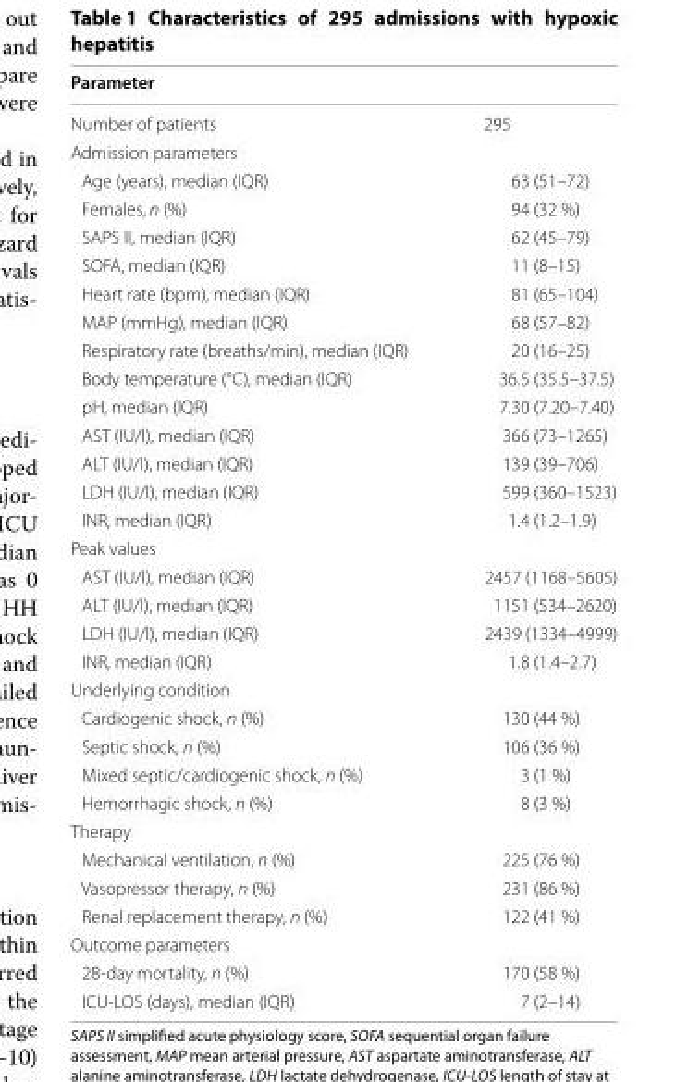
<table><thead><tr><td>Parameter</td><td></td></tr></thead><tbody><tr><td>Number of patients</td><td>295</td></tr><tr><td colspan="2">Admission parameters</td></tr><tr><td>Age (years), median (IQR)</td><td>63 (51–72)</td></tr><tr><td>Females, n (%)</td><td>94 (32 %)</td></tr><tr><td>SAPS II, median (IQR)</td><td>62 (45–79)</td></tr><tr><td>SOFA, median (IQR)</td><td>11 (8–15)</td></tr><tr><td>Heart rate (bpm), median (IQR)</td><td>81 (65–104)</td></tr><tr><td>MAP (mmHg), median (IQR)</td><td>68 (57–82)</td></tr><tr><td>Respiratory rate (breaths/min), median (IQR)</td><td>20 (16–25)</td></tr><tr><td>Body temperature (°C), median (IQR)</td><td>36.5 (35.5–37.5)</td></tr><tr><td>pH, median (IQR)</td><td>7.30 (7.20–7.40)</td></tr><tr><td>AST (IU/l), median (IQR)</td><td>366 (73–1265)</td></tr><tr><td>ALT (IU/l), median (IQR)</td><td>139 (39–706)</td></tr><tr><td>LDH (IU/l), median (IQR)</td><td>599 (360–1523)</td></tr><tr><td>INR, median (IQR)</td><td>1.4 (1.2–1.9)</td></tr><tr><td colspan="2">Peak values</td></tr><tr><td>AST (IU/l), median (IQR)</td><td>2457 (1168–5605)</td></tr><tr><td>ALT (IU/l), median (IQR)</td><td>1151 (534–2620)</td></tr><tr><td>LDH (IU/l), median (IQR)</td><td>2439 (1334–4999)</td></tr><tr><td>INR, median (IQR)</td><td>1.8 (1.4–2.7)</td></tr><tr><td colspan="2">Underlying condition</td></tr><tr><td>Cardiogenic shock, n (%)</td><td>130 (44 %)</td></tr><tr><td>Septic shock, n (%)</td><td>106 (36 %)</td></tr><tr><td>Mixed septic/cardiogenic shock, n (%)</td><td>3 (1 %)</td></tr><tr><td>Hemorrhagic shock, n (%)</td><td>8 (3 %)</td></tr><tr><td colspan="2">Therapy</td></tr><tr><td>Mechanical ventilation, n (%)</td><td>225 (76 %)</td></tr><tr><td>Vasopressor therapy, n (%)</td><td>231 (86 %)</td></tr><tr><td>Renal replacement therapy, n (%)</td><td>122 (41 %)</td></tr><tr><td colspan="2">Outcome parameters</td></tr><tr><td>28-day mortality, n (%)</td><td>170 (58 %)</td></tr><tr><td>ICU-LOS (days), median (IQR)</td><td>7 (2–14)</td></tr></tbody></table>